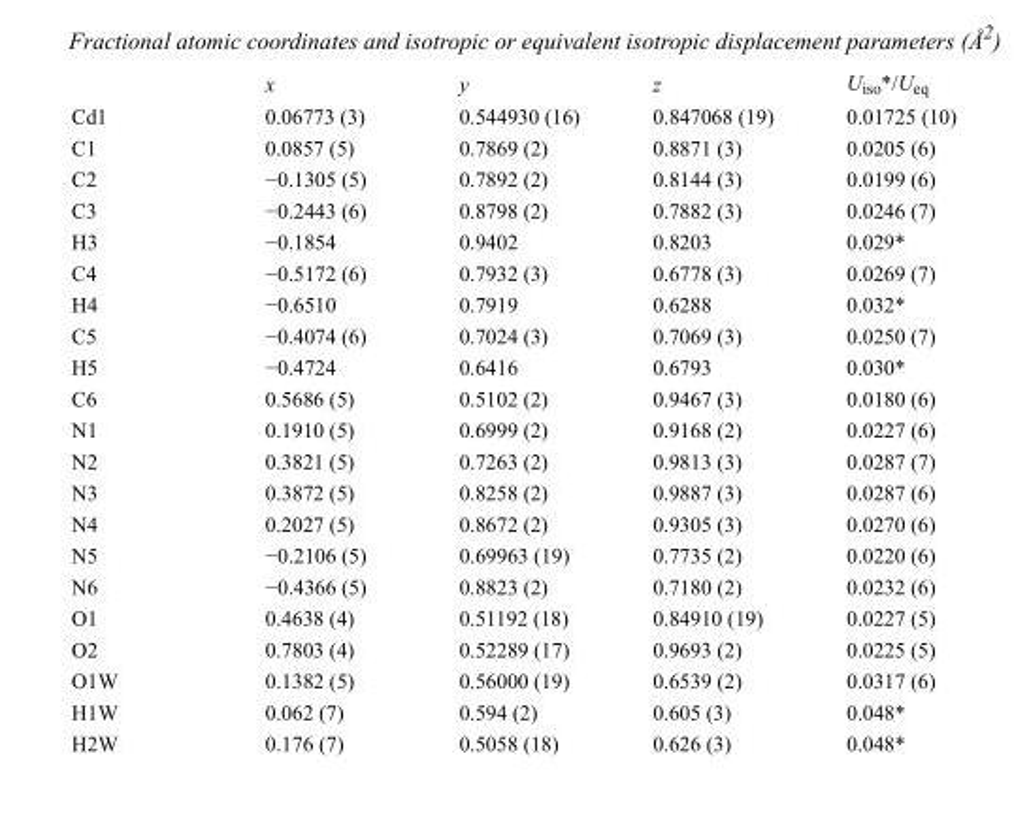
<table><thead><tr><td></td><td>x</td><td>y</td><td>z</td><td>U<sub>iso</sub>*/U<sub>eq</sub></td></tr></thead><tbody><tr><td>Cd1</td><td>0.06773 (3)</td><td>0.544930 (16)</td><td>0.847068 (19)</td><td>0.01725 (10)</td></tr><tr><td>C1</td><td>0.0857 (5)</td><td>0.7869 (2)</td><td>0.8871 (3)</td><td>0.0205 (6)</td></tr><tr><td>C2</td><td>−0.1305 (5)</td><td>0.7892 (2)</td><td>0.8144 (3)</td><td>0.0199 (6)</td></tr><tr><td>C3</td><td>−0.2443 (6)</td><td>0.8798 (2)</td><td>0.7882 (3)</td><td>0.0246 (7)</td></tr><tr><td>H3</td><td>−0.1854</td><td>0.9402</td><td>0.8203</td><td>0.029*</td></tr><tr><td>C4</td><td>−0.5172 (6)</td><td>0.7932 (3)</td><td>0.6778 (3)</td><td>0.0269 (7)</td></tr><tr><td>H4</td><td>−0.6510</td><td>0.7919</td><td>0.6288</td><td>0.032*</td></tr><tr><td>C5</td><td>−0.4074 (6)</td><td>0.7024 (3)</td><td>0.7069 (3)</td><td>0.0250 (7)</td></tr><tr><td>H5</td><td>−0.4724</td><td>0.6416</td><td>0.6793</td><td>0.030*</td></tr><tr><td>C6</td><td>0.5686 (5)</td><td>0.5102 (2)</td><td>0.9467 (3)</td><td>0.0180 (6)</td></tr><tr><td>N1</td><td>0.1910 (5)</td><td>0.6999 (2)</td><td>0.9168 (2)</td><td>0.0227 (6)</td></tr><tr><td>N2</td><td>0.3821 (5)</td><td>0.7263 (2)</td><td>0.9813 (3)</td><td>0.0287 (7)</td></tr><tr><td>N3</td><td>0.3872 (5)</td><td>0.8258 (2)</td><td>0.9887 (3)</td><td>0.0287 (6)</td></tr><tr><td>N4</td><td>0.2027 (5)</td><td>0.8672 (2)</td><td>0.9305 (3)</td><td>0.0270 (6)</td></tr><tr><td>N5</td><td>−0.2106 (5)</td><td>0.69963 (19)</td><td>0.7735 (2)</td><td>0.0220 (6)</td></tr><tr><td>N6</td><td>−0.4366 (5)</td><td>0.8823 (2)</td><td>0.7180 (2)</td><td>0.0232 (6)</td></tr><tr><td>O1</td><td>0.4638 (4)</td><td>0.51192 (18)</td><td>0.84910 (19)</td><td>0.0227 (5)</td></tr><tr><td>O2</td><td>0.7803 (4)</td><td>0.52289 (17)</td><td>0.9693 (2)</td><td>0.0225 (5)</td></tr><tr><td>O1W</td><td>0.1382 (5)</td><td>0.56000 (19)</td><td>0.6539 (2)</td><td>0.0317 (6)</td></tr><tr><td>H1W</td><td>0.062 (7)</td><td>0.594 (2)</td><td>0.605 (3)</td><td>0.048*</td></tr><tr><td>H2W</td><td>0.176 (7)</td><td>0.5058 (18)</td><td>0.626 (3)</td><td>0.048*</td></tr></tbody></table>